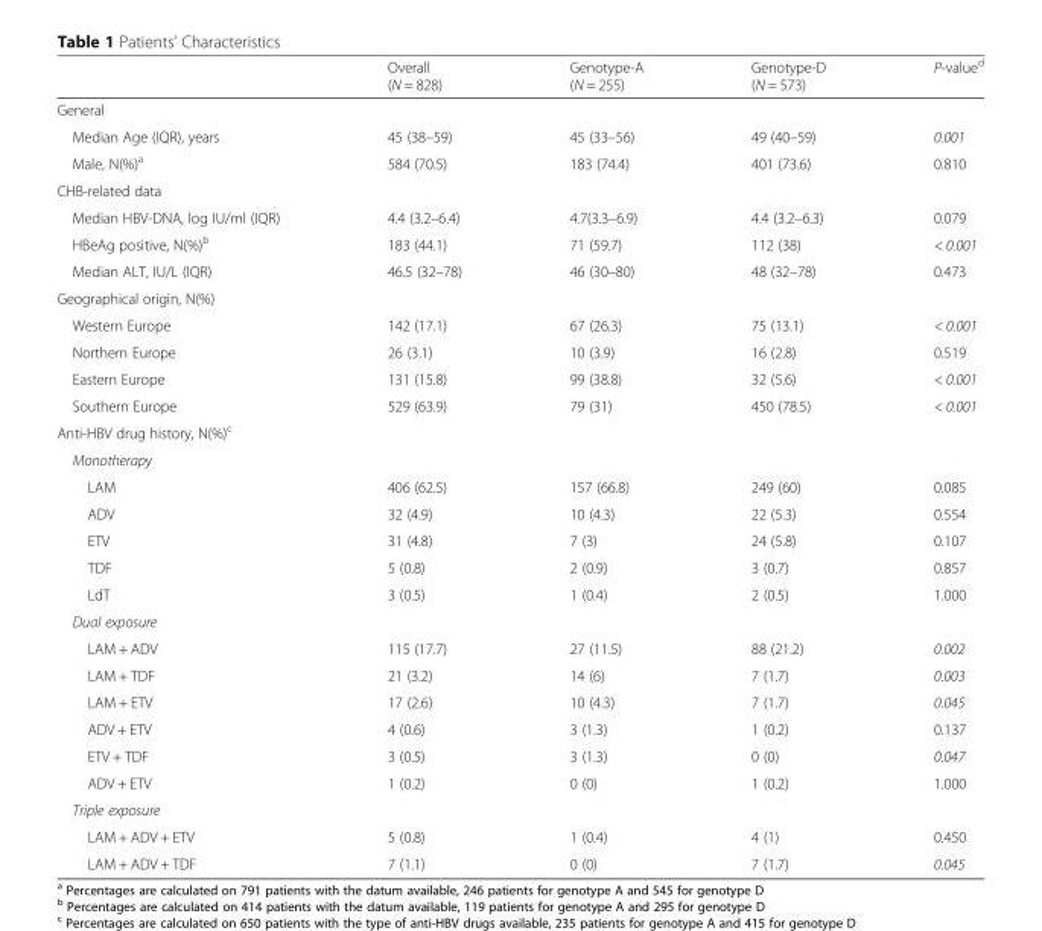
<table><thead><tr><td></td><td>Overall (N = 828)</td><td>Genotype-A (N = 255)</td><td>Genotype-D (N = 573)</td><td>P-value<sup>d</sup></td></tr></thead><tbody><tr><td colspan="5">General</td></tr><tr><td>Median Age (IQR), years</td><td>45 (38–59)</td><td>45 (33–56)</td><td>49 (40–59)</td><td>0.001</td></tr><tr><td>Male, N(%)<sup>a</sup></td><td>584 (70.5)</td><td>183 (74.4)</td><td>401 (73.6)</td><td>0.810</td></tr><tr><td colspan="5">CHB-related data</td></tr><tr><td>Median HBV-DNA, log IU/ml (IQR)</td><td>4.4 (3.2–6.4)</td><td>4.7(3.3–6.9)</td><td>4.4 (3.2–6.3)</td><td>0.079</td></tr><tr><td>HBeAg positive, N(%)<sup>b</sup></td><td>183 (44.1)</td><td>71 (59.7)</td><td>112 (38)</td><td>&lt; 0.001</td></tr><tr><td>Median ALT, IU/L (IQR)</td><td>46.5 (32–78)</td><td>46 (30–80)</td><td>48 (32–78)</td><td>0.473</td></tr><tr><td colspan="5">Geographical origin, N(%)</td></tr><tr><td>Western Europe</td><td>142 (17.1)</td><td>67 (26.3)</td><td>75 (13.1)</td><td>&lt; 0.001</td></tr><tr><td>Northern Europe</td><td>26 (3.1)</td><td>10 (3.9)</td><td>16 (2.8)</td><td>0.519</td></tr><tr><td>Eastern Europe</td><td>131 (15.8)</td><td>99 (38.8)</td><td>32 (5.6)</td><td>&lt; 0.001</td></tr><tr><td>Southern Europe</td><td>529 (63.9)</td><td>79 (31)</td><td>450 (78.5)</td><td>&lt; 0.001</td></tr><tr><td colspan="5">Anti-HBV drug history, N(%)<sup>c</sup></td></tr><tr><td colspan="5">Monotherapy</td></tr><tr><td>LAM</td><td>406 (62.5)</td><td>157 (66.8)</td><td>249 (60)</td><td>0.085</td></tr><tr><td>ADV</td><td>32 (4.9)</td><td>10 (4.3)</td><td>22 (5.3)</td><td>0.554</td></tr><tr><td>ETV</td><td>31 (4.8)</td><td>7 (3)</td><td>24 (5.8)</td><td>0.107</td></tr><tr><td>TDF</td><td>5 (0.8)</td><td>2 (0.9)</td><td>3 (0.7)</td><td>0.857</td></tr><tr><td>LdT</td><td>3 (0.5)</td><td>1 (0.4)</td><td>2 (0.5)</td><td>1.000</td></tr><tr><td colspan="5">Dual exposure</td></tr><tr><td>LAM + ADV</td><td>115 (17.7)</td><td>27 (11.5)</td><td>88 (21.2)</td><td>0.002</td></tr><tr><td>LAM + TDF</td><td>21 (3.2)</td><td>14 (6)</td><td>7 (1.7)</td><td>0.003</td></tr><tr><td>LAM + ETV</td><td>17 (2.6)</td><td>10 (4.3)</td><td>7 (1.7)</td><td>0.045</td></tr><tr><td>ADV + ETV</td><td>4 (0.6)</td><td>3 (1.3)</td><td>1 (0.2)</td><td>0.137</td></tr><tr><td>ETV + TDF</td><td>3 (0.5)</td><td>3 (1.3)</td><td>0 (0)</td><td>0.047</td></tr><tr><td>ADV + ETV</td><td>1 (0.2)</td><td>0 (0)</td><td>1 (0.2)</td><td>1.000</td></tr><tr><td colspan="5">Triple exposure</td></tr><tr><td>LAM + ADV + ETV</td><td>5 (0.8)</td><td>1 (0.4)</td><td>4 (1)</td><td>0.450</td></tr><tr><td>LAM + ADV + TDF</td><td>7 (1.1)</td><td>0 (0)</td><td>7 (1.7)</td><td>0.045</td></tr></tbody></table>